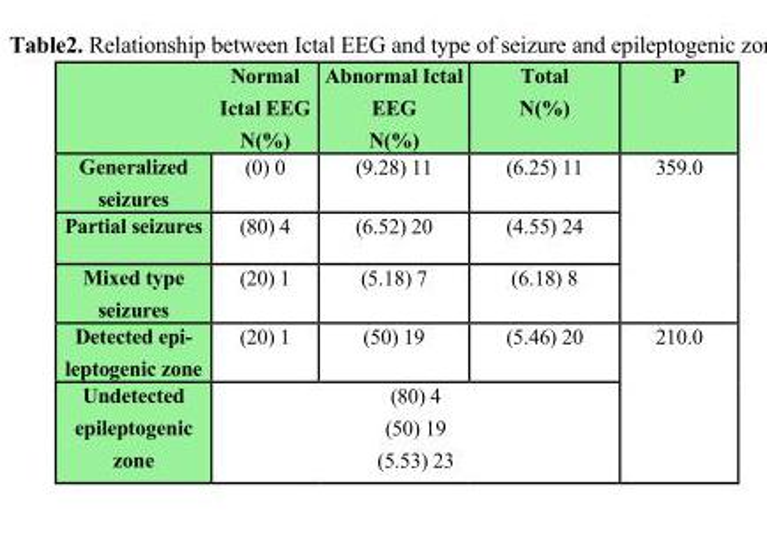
<table><thead><tr><td></td><td>Normal Ictal EEG N(%)</td><td>Abnormal Ictal EEG N(%)</td><td>Total N(%)</td><td>P</td></tr></thead><tbody><tr><td>Generalized seizures</td><td>(0) 0</td><td>(9.28) 11</td><td>(6.25) 11</td><td rowspan="3">359.0</td></tr><tr><td>Partial seizures</td><td>(80) 4</td><td>(6.52) 20</td><td>(4.55) 24</td></tr><tr><td>Mixed type seizures</td><td>(20) 1</td><td>(5.18) 7</td><td>(6.18) 8</td></tr><tr><td>Detected epi- leptogenic zone</td><td>(20) 1</td><td>(50) 19</td><td>(5.46) 20</td><td rowspan="2">210.0</td></tr><tr><td>Undetected epileptogenic zone</td><td colspan="3">(80) 4 (50) 19 (5.53) 23</td></tr></tbody></table>